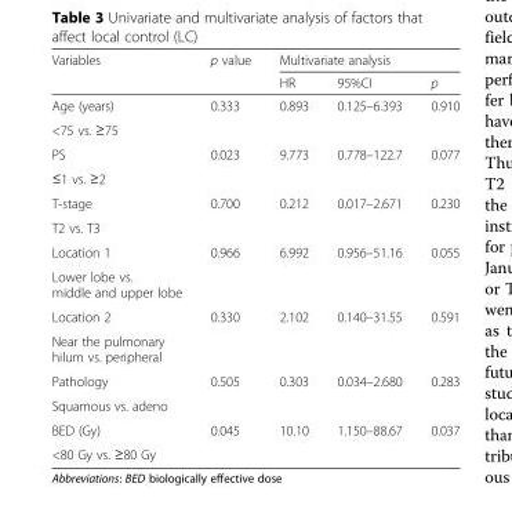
<table><thead><tr><td rowspan="2">Variables</td><td rowspan="2">p value</td><td colspan="3">Multivariate analysis</td></tr><tr><td>HR</td><td>95%CI</td><td>p</td></tr></thead><tbody><tr><td>Age (years)</td><td rowspan="2">0.333</td><td rowspan="2">0.893</td><td rowspan="2">0.125–6.393</td><td rowspan="2">0.910</td></tr><tr><td>&lt;75 vs. ≥75</td></tr><tr><td>PS</td><td rowspan="2">0.023</td><td rowspan="2">9.773</td><td rowspan="2">0.778–122.7</td><td rowspan="2">0.077</td></tr><tr><td>≤1 vs. ≥2</td></tr><tr><td>T-stage</td><td rowspan="2">0.700</td><td rowspan="2">0.212</td><td rowspan="2">0.017–2.671</td><td rowspan="2">0.230</td></tr><tr><td>T2 vs. T3</td></tr><tr><td>Location 1</td><td rowspan="2">0.966</td><td rowspan="2">6.992</td><td rowspan="2">0.956–51.16</td><td rowspan="2">0.055</td></tr><tr><td>Lower lobe vs. middle and upper lobe</td></tr><tr><td>Location 2</td><td rowspan="2">0.330</td><td rowspan="2">2.102</td><td rowspan="2">0.140–31.55</td><td rowspan="2">0.591</td></tr><tr><td>Near the pulmonary hilum vs. peripheral</td></tr><tr><td>Pathology</td><td rowspan="2">0.505</td><td rowspan="2">0.303</td><td rowspan="2">0.034–2.680</td><td rowspan="2">0.283</td></tr><tr><td>Squamous vs. adeno</td></tr><tr><td>BED (Gy)</td><td rowspan="2">0.045</td><td rowspan="2">10.10</td><td rowspan="2">1.150–88.67</td><td rowspan="2">0.037</td></tr><tr><td>&lt;80 Gy vs. ≥80 Gy</td></tr></tbody></table>